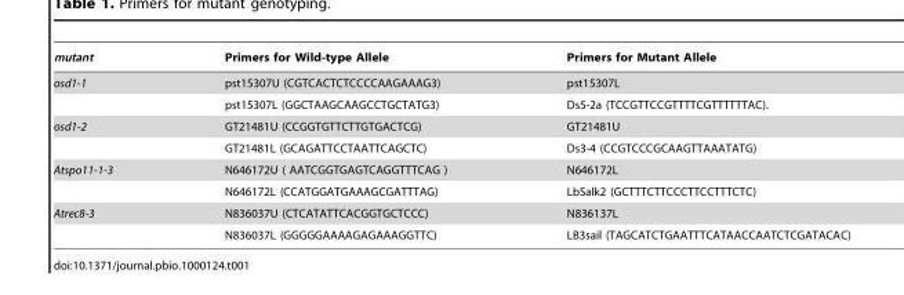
<table><thead><tr><td>mutant</td><td>Primers for Wild-type Allele</td><td>Primers for Mutant Allele</td></tr></thead><tbody><tr><td rowspan="2">osd1-1</td><td>pst15307U (CGTCACTCTCCCCAAGAAAG3)</td><td>pst15307L</td></tr><tr><td>pst15307L (GGCTAAGCAAGCCTGCTATG3)</td><td>Ds5-2a (TCCGTTCCGTTTTCGTTTTTTAC).</td></tr><tr><td rowspan="2">osd1-2</td><td>GT21481U (CCGGTGTTCTTGTGACTCG)</td><td>GT21481U</td></tr><tr><td>GT21481L (GCAGATTCCTAATTCAGCTC)</td><td>Ds3-4 (CCGTCCCGCAAGTTAAATATG)</td></tr><tr><td rowspan="2">Atspo11-1-3</td><td>N646172U ( AATCGGTGAGTCAGGTTTCAG )</td><td>N646172L</td></tr><tr><td>N646172L (CCATGGATGAAAGCGATTTAG)</td><td>LbSalk2 (GCTTTCTTCCCTTCCTTTCTC)</td></tr><tr><td rowspan="2">Atrec8-3</td><td>N836037U (CTCATATTCACGGTGCTCCC)</td><td>N836137L</td></tr><tr><td>N836037L (GGGGGAAAAGAGAAAGGTTC)</td><td>LB3sail (TAGCATCTGAATTTCATAACCAATCTCGATACAC)</td></tr></tbody></table>